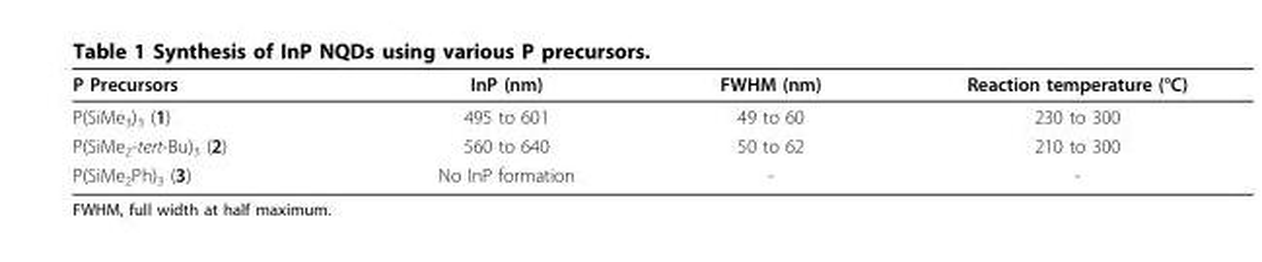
<table><thead><tr><td>P Precursors</td><td>InP (nm)</td><td>FWHM (nm)</td><td>Reaction temperature (°C)</td></tr></thead><tbody><tr><td>P(SiMe<sub>3</sub>)<sub>3</sub> (1)</td><td>495 to 601</td><td>49 to 60</td><td>230 to 300</td></tr><tr><td>P(SiMe<sub>2</sub>-tert-Bu)<sub>3</sub> (2)</td><td>560 to 640</td><td>50 to 62</td><td>210 to 300</td></tr><tr><td>P(SiMe<sub>2</sub>Ph)<sub>3</sub> (3)</td><td>No InP formation</td><td>-</td><td>-</td></tr></tbody></table>